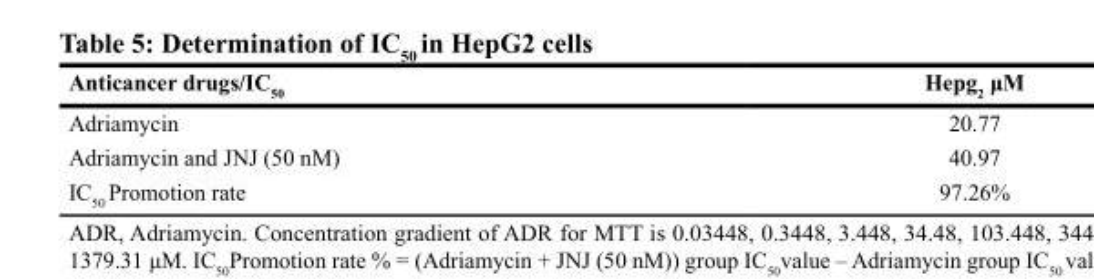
<table><thead><tr><td>Anticancer drugs/IC<sub>50</sub></td><td>Hepg<sub>2</sub> μM</td></tr></thead><tbody><tr><td>Adriamycin</td><td>20.77</td></tr><tr><td>Adriamycin and JNJ (50 nM)</td><td>40.97</td></tr><tr><td>IC<sub>50</sub> Promotion rate</td><td>97.26%</td></tr></tbody></table>